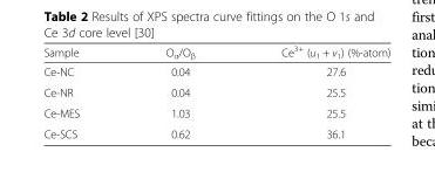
<table><thead><tr><td>Sample</td><td>O<sub>α</sub>/O<sub>β</sub></td><td>Ce<sup>3+</sup> (u<sub>1</sub> + v<sub>1</sub>) (%-atom)</td></tr></thead><tbody><tr><td>Ce-NC</td><td>0.04</td><td>27.6</td></tr><tr><td>Ce-NR</td><td>0.04</td><td>25.5</td></tr><tr><td>Ce-MES</td><td>1.03</td><td>25.5</td></tr><tr><td>Ce-SCS</td><td>0.62</td><td>36.1</td></tr></tbody></table>